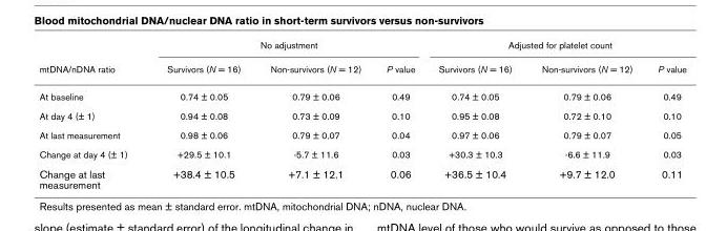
<table><thead><tr><td rowspan="2">mtDNA/nDNA ratio</td><td colspan="3">No adjustment</td><td colspan="3">Adjusted for platelet count</td></tr><tr><td>Survivors (N = 16)</td><td>Non-survivors (N = 12)</td><td>P value</td><td>Survivors (N = 16)</td><td>Non-survivors (N = 12)</td><td>P value</td></tr></thead><tbody><tr><td>At baseline</td><td>0.74 ± 0.05</td><td>0.79 ± 0.06</td><td>0.49</td><td>0.74 ± 0.05</td><td>0.79 ± 0.06</td><td>0.49</td></tr><tr><td>At day 4 (± 1)</td><td>0.94 ± 0.08</td><td>0.73 ± 0.09</td><td>0.10</td><td>0.95 ± 0.08</td><td>0.72 ± 0.10</td><td>0.10</td></tr><tr><td>At last measurement</td><td>0.98 ± 0.06</td><td>0.79 ± 0.07</td><td>0.04</td><td>0.97 ± 0.06</td><td>0.79 ± 0.07</td><td>0.05</td></tr><tr><td>Change at day 4 (± 1)</td><td>+29.5 ± 10.1</td><td>-5.7 ± 11.6</td><td>0.03</td><td>+30.3 ± 10.3</td><td>-6.6 ± 11.9</td><td>0.03</td></tr><tr><td>Change at last measurement</td><td>+38.4 ± 10.5</td><td>+7.1 ± 12.1</td><td>0.06</td><td>+36.5 ± 10.4</td><td>+9.7 ± 12.0</td><td>0.11</td></tr></tbody></table>